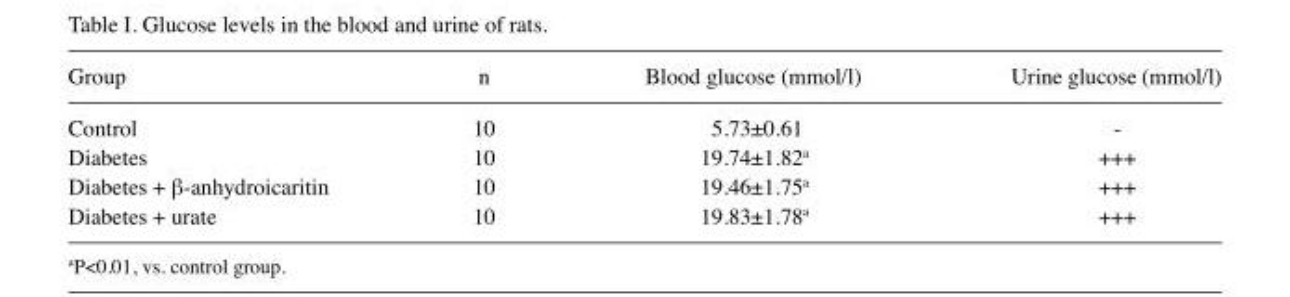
<table><thead><tr><td>Group</td><td>n</td><td>Blood glucose (mmol/l)</td><td>Urine glucose (mmol/l)</td></tr></thead><tbody><tr><td>Control</td><td>10</td><td>5.73±0.61</td><td>-</td></tr><tr><td>Diabetes</td><td>10</td><td>19.74±1.82<sup>a</sup></td><td>+++</td></tr><tr><td>Diabetes + β-anhydroicaritin</td><td>10</td><td>19.46±1.75<sup>a</sup></td><td>+++</td></tr><tr><td>Diabetes + urate</td><td>10</td><td>19.83±1.78<sup>a</sup></td><td>+++</td></tr></tbody></table>